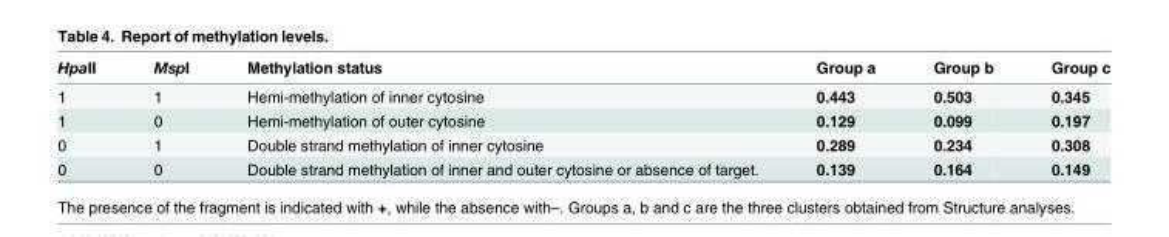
<table><thead><tr><td>HpaII</td><td>MspI</td><td>Methylation status</td><td>Group a</td><td>Group b</td><td>Group c</td></tr></thead><tbody><tr><td>1</td><td>1</td><td>Hemi-methylation of inner cytosine</td><td>0.443</td><td>0.503</td><td>0.345</td></tr><tr><td>1</td><td>0</td><td>Hemi-methylation of outer cytosine</td><td>0.129</td><td>0.099</td><td>0.197</td></tr><tr><td>0</td><td>1</td><td>Double strand methylation of inner cytosine</td><td>0.289</td><td>0.234</td><td>0.308</td></tr><tr><td>0</td><td>0</td><td>Double strand methylation of inner and outer cytosine or absence of target.</td><td>0.139</td><td>0.164</td><td>0.149</td></tr></tbody></table>